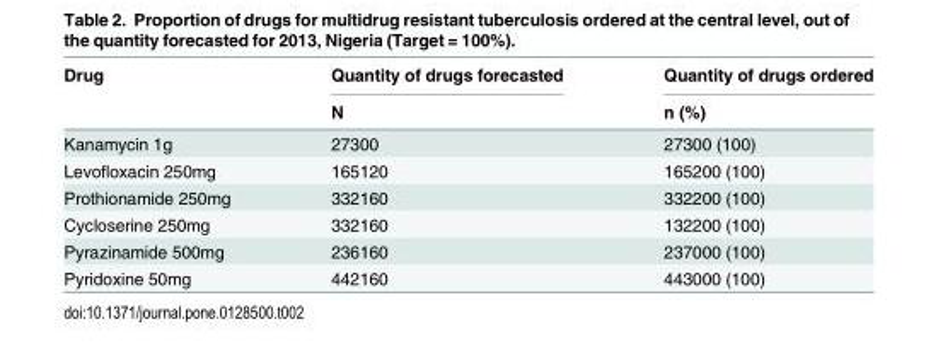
<table><thead><tr><td rowspan="2">Drug</td><td rowspan="2">Quantity of drugs forecasted N</td><td rowspan="2">Quantity of drugs ordered n (%)</td></tr><tr></tr></thead><tbody><tr><td>Kanamycin 1g</td><td>27300</td><td>27300 (100)</td></tr><tr><td>Levofloxacin 250mg</td><td>165120</td><td>165200 (100)</td></tr><tr><td>Prothionamide 250mg</td><td>332160</td><td>332200 (100)</td></tr><tr><td>Cycloserine 250mg</td><td>332160</td><td>132200 (100)</td></tr><tr><td>Pyrazinamide 500mg</td><td>236160</td><td>237000 (100)</td></tr><tr><td>Pyridoxine 50mg</td><td>442160</td><td>443000 (100)</td></tr></tbody></table>